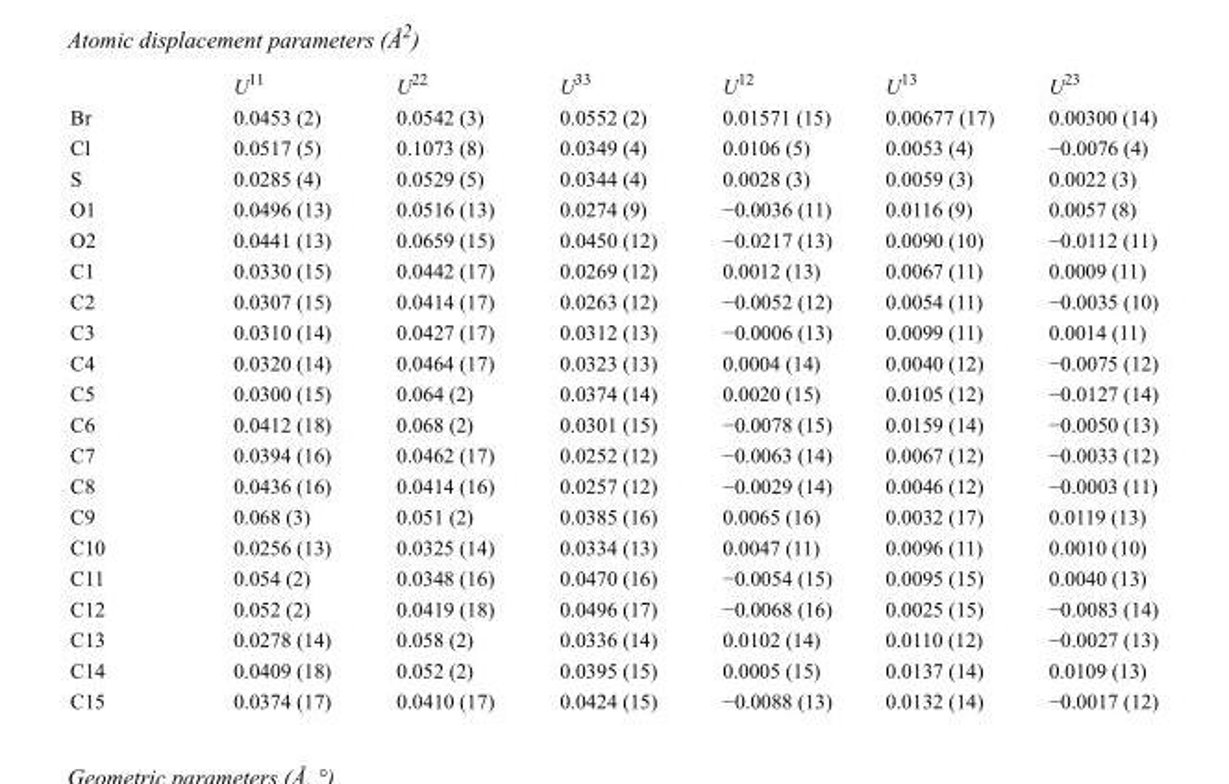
<table><thead><tr><td></td><td>U<sup>11</sup></td><td>U<sup>22</sup></td><td>U<sup>33</sup></td><td>U<sup>12</sup></td><td>U<sup>13</sup></td><td>U<sup>23</sup></td></tr></thead><tbody><tr><td>Br</td><td>0.0453 (2)</td><td>0.0542 (3)</td><td>0.0552 (2)</td><td>0.01571 (15)</td><td>0.00677 (17)</td><td>0.00300 (14)</td></tr><tr><td>Cl</td><td>0.0517 (5)</td><td>0.1073 (8)</td><td>0.0349 (4)</td><td>0.0106 (5)</td><td>0.0053 (4)</td><td>−0.0076 (4)</td></tr><tr><td>S</td><td>0.0285 (4)</td><td>0.0529 (5)</td><td>0.0344 (4)</td><td>0.0028 (3)</td><td>0.0059 (3)</td><td>0.0022 (3)</td></tr><tr><td>O1</td><td>0.0496 (13)</td><td>0.0516 (13)</td><td>0.0274 (9)</td><td>−0.0036 (11)</td><td>0.0116 (9)</td><td>0.0057 (8)</td></tr><tr><td>O2</td><td>0.0441 (13)</td><td>0.0659 (15)</td><td>0.0450 (12)</td><td>−0.0217 (13)</td><td>0.0090 (10)</td><td>−0.0112 (11)</td></tr><tr><td>C1</td><td>0.0330 (15)</td><td>0.0442 (17)</td><td>0.0269 (12)</td><td>0.0012 (13)</td><td>0.0067 (11)</td><td>0.0009 (11)</td></tr><tr><td>C2</td><td>0.0307 (15)</td><td>0.0414 (17)</td><td>0.0263 (12)</td><td>−0.0052 (12)</td><td>0.0054 (11)</td><td>−0.0035 (10)</td></tr><tr><td>C3</td><td>0.0310 (14)</td><td>0.0427 (17)</td><td>0.0312 (13)</td><td>−0.0006 (13)</td><td>0.0099 (11)</td><td>0.0014 (11)</td></tr><tr><td>C4</td><td>0.0320 (14)</td><td>0.0464 (17)</td><td>0.0323 (13)</td><td>0.0004 (14)</td><td>0.0040 (12)</td><td>−0.0075 (12)</td></tr><tr><td>C5</td><td>0.0300 (15)</td><td>0.064 (2)</td><td>0.0374 (14)</td><td>0.0020 (15)</td><td>0.0105 (12)</td><td>−0.0127 (14)</td></tr><tr><td>C6</td><td>0.0412 (18)</td><td>0.068 (2)</td><td>0.0301 (15)</td><td>−0.0078 (15)</td><td>0.0159 (14)</td><td>−0.0050 (13)</td></tr><tr><td>C7</td><td>0.0394 (16)</td><td>0.0462 (17)</td><td>0.0252 (12)</td><td>−0.0063 (14)</td><td>0.0067 (12)</td><td>−0.0033 (12)</td></tr><tr><td>C8</td><td>0.0436 (16)</td><td>0.0414 (16)</td><td>0.0257 (12)</td><td>−0.0029 (14)</td><td>0.0046 (12)</td><td>−0.0003 (11)</td></tr><tr><td>C9</td><td>0.068 (3)</td><td>0.051 (2)</td><td>0.0385 (16)</td><td>0.0065 (16)</td><td>0.0032 (17)</td><td>0.0119 (13)</td></tr><tr><td>C10</td><td>0.0256 (13)</td><td>0.0325 (14)</td><td>0.0334 (13)</td><td>0.0047 (11)</td><td>0.0096 (11)</td><td>0.0010 (10)</td></tr><tr><td>C11</td><td>0.054 (2)</td><td>0.0348 (16)</td><td>0.0470 (16)</td><td>−0.0054 (15)</td><td>0.0095 (15)</td><td>0.0040 (13)</td></tr><tr><td>C12</td><td>0.052 (2)</td><td>0.0419 (18)</td><td>0.0496 (17)</td><td>−0.0068 (16)</td><td>0.0025 (15)</td><td>−0.0083 (14)</td></tr><tr><td>C13</td><td>0.0278 (14)</td><td>0.058 (2)</td><td>0.0336 (14)</td><td>0.0102 (14)</td><td>0.0110 (12)</td><td>−0.0027 (13)</td></tr><tr><td>C14</td><td>0.0409 (18)</td><td>0.052 (2)</td><td>0.0395 (15)</td><td>0.0005 (15)</td><td>0.0137 (14)</td><td>0.0109 (13)</td></tr><tr><td>C15</td><td>0.0374 (17)</td><td>0.0410 (17)</td><td>0.0424 (15)</td><td>−0.0088 (13)</td><td>0.0132 (14)</td><td>−0.0017 (12)</td></tr></tbody></table>